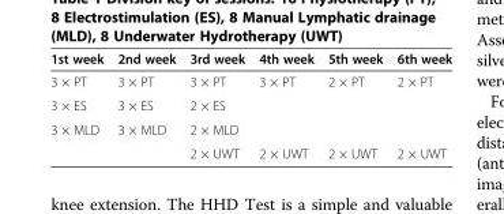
<table><thead><tr><td>1st week</td><td>2nd week</td><td>3rd week</td><td>4th week</td><td>5th week</td><td>6th week</td></tr></thead><tbody><tr><td>3 × PT</td><td>3 × PT</td><td>3 × PT</td><td>3 × PT</td><td>2 × PT</td><td>2 × PT</td></tr><tr><td>3 × ES</td><td>3 × ES</td><td>2 × ES</td><td></td><td></td><td></td></tr><tr><td rowspan="2">3 × MLD</td><td>3 × MLD</td><td>2 × MLD</td><td></td><td></td><td></td></tr><tr><td></td><td>2 × UWT</td><td>2 × UWT</td><td>2 × UWT</td><td>2 × UWT</td></tr></tbody></table>